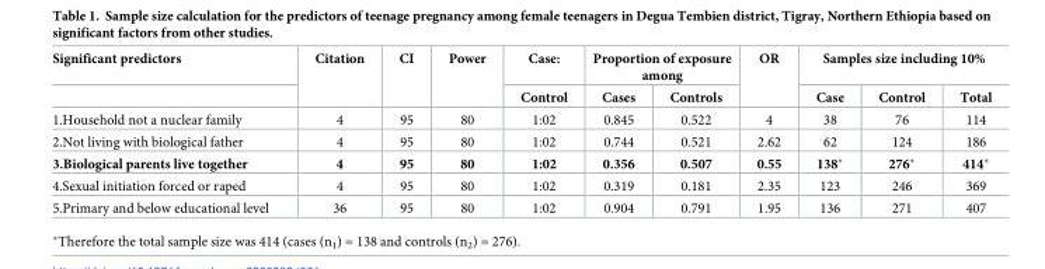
<table><thead><tr><td rowspan="2">Significant predictors</td><td rowspan="2">Citation</td><td rowspan="2">CI</td><td rowspan="2">Power</td><td rowspan="2">Case: Control</td><td colspan="2">Proportion of exposure among</td><td rowspan="2">OR</td><td colspan="3">Samples size including 10%</td></tr><tr><td>Cases</td><td>Controls</td><td>Case</td><td>Control</td><td>Total</td></tr></thead><tbody><tr><td>1.Household not a nuclear family</td><td>4</td><td>95</td><td>80</td><td>1:02</td><td>0.845</td><td>0.522</td><td>4</td><td>38</td><td>76</td><td>114</td></tr><tr><td>2.Not living with biological father</td><td>4</td><td>95</td><td>80</td><td>1:02</td><td>0.744</td><td>0.521</td><td>2.62</td><td>62</td><td>124</td><td>186</td></tr><tr><td>3.Biological parents live together</td><td>4</td><td>95</td><td>80</td><td>1:02</td><td>0.356</td><td>0.507</td><td>0.55</td><td>138*</td><td>276*</td><td>414*</td></tr><tr><td>4.Sexual initiation forced or raped</td><td>4</td><td>95</td><td>80</td><td>1:02</td><td>0.319</td><td>0.181</td><td>2.35</td><td>123</td><td>246</td><td>369</td></tr><tr><td>5.Primary and below educational level</td><td>36</td><td>95</td><td>80</td><td>1:02</td><td>0.904</td><td>0.791</td><td>1.95</td><td>136</td><td>271</td><td>407</td></tr></tbody></table>